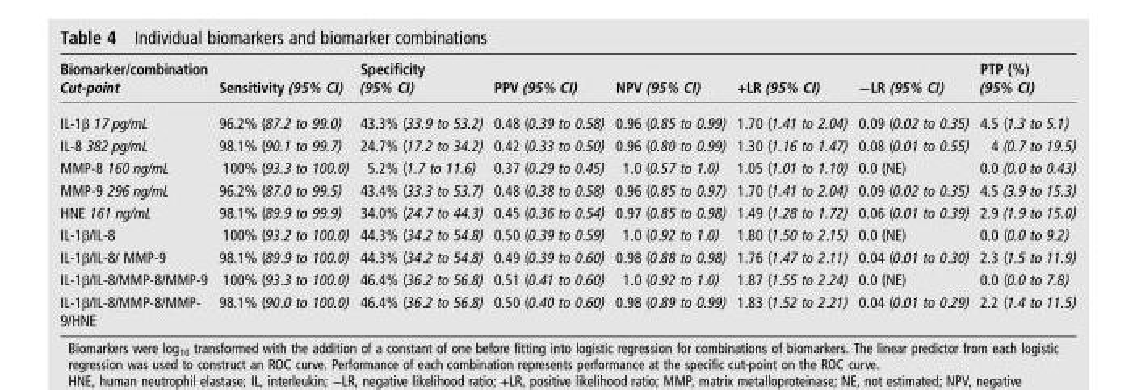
<table><thead><tr><td>Biomarker/combination Cut-point</td><td>Sensitivity (95% CI)</td><td>Specificity (95% CI)</td><td>PPV (95% CI)</td><td>NPV (95% CI)</td><td>+LR (95% CI)</td><td>−LR (95% CI)</td><td>PTP (%) (95% CI)</td></tr></thead><tbody><tr><td>IL-1β 17 pg/mL</td><td>96.2% (87.2 to 99.0)</td><td>43.3% (33.9 to 53.2)</td><td>0.48 (0.39 to 0.58)</td><td>0.96 (0.85 to 0.99)</td><td>1.70 (1.41 to 2.04)</td><td>0.09 (0.02 to 0.35)</td><td>4.5 (1.3 to 5.1)</td></tr><tr><td>IL-8 382 pg/mL</td><td>98.1% (90.1 to 99.7)</td><td>24.7% (17.2 to 34.2)</td><td>0.42 (0.33 to 0.50)</td><td>0.96 (0.80 to 0.99)</td><td>1.30 (1.16 to 1.47)</td><td>0.08 (0.01 to 0.55)</td><td>4 (0.7 to 19.5)</td></tr><tr><td>MMP-8 160 ng/mL</td><td>100% (93.3 to 100.0)</td><td>5.2% (1.7 to 11.6)</td><td>0.37 (0.29 to 0.45)</td><td>1.0 (0.57 to 1.0)</td><td>1.05 (1.01 to 1.10)</td><td>0.0 (NE)</td><td>0.0 (0.0 to 0.43)</td></tr><tr><td>MMP-9 296 ng/mL</td><td>96.2% (87.0 to 99.5)</td><td>43.4% (33.3 to 53.7)</td><td>0.48 (0.38 to 0.58)</td><td>0.96 (0.85 to 0.97)</td><td>1.70 (1.41 to 2.04)</td><td>0.09 (0.02 to 0.35)</td><td>4.5 (3.9 to 15.3)</td></tr><tr><td>HNE 161 ng/mL</td><td>98.1% (89.9 to 99.9)</td><td>34.0% (24.7 to 44.3)</td><td>0.45 (0.36 to 0.54)</td><td>0.97 (0.85 to 0.98)</td><td>1.49 (1.28 to 1.72)</td><td>0.06 (0.01 to 0.39)</td><td>2.9 (1.9 to 15.0)</td></tr><tr><td>IL-1β/IL-8</td><td>100% (93.2 to 100.0)</td><td>44.3% (34.2 to 54.8)</td><td>0.50 (0.39 to 0.59)</td><td>1.0 (0.92 to 1.0)</td><td>1.80 (1.50 to 2.15)</td><td>0.0 (NE)</td><td>0.0 (0.0 to 9.2)</td></tr><tr><td>IL-1β/IL-8/ MMP-9</td><td>98.1% (89.9 to 100.0)</td><td>44.3% (34.2 to 54.8)</td><td>0.49 (0.39 to 0.60)</td><td>0.98 (0.88 to 0.98)</td><td>1.76 (1.47 to 2.11)</td><td>0.04 (0.01 to 0.30)</td><td>2.3 (1.5 to 11.9)</td></tr><tr><td>IL-1β/IL-8/MMP-8/MMP-9</td><td>100% (93.3 to 100.0)</td><td>46.4% (36.2 to 56.8)</td><td>0.51 (0.41 to 0.60)</td><td>1.0 (0.92 to 1.0)</td><td>1.87 (1.55 to 2.24)</td><td>0.0 (NE)</td><td>0.0 (0.0 to 7.8)</td></tr><tr><td>IL-1β/IL-8/MMP-8/MMP- 9/HNE</td><td>98.1% (90.0 to 100.0)</td><td>46.4% (36.2 to 56.8)</td><td>0.50 (0.40 to 0.60)</td><td>0.98 (0.89 to 0.99)</td><td>1.83 (1.52 to 2.21)</td><td>0.04 (0.01 to 0.29)</td><td>2.2 (1.4 to 11.5)</td></tr></tbody></table>